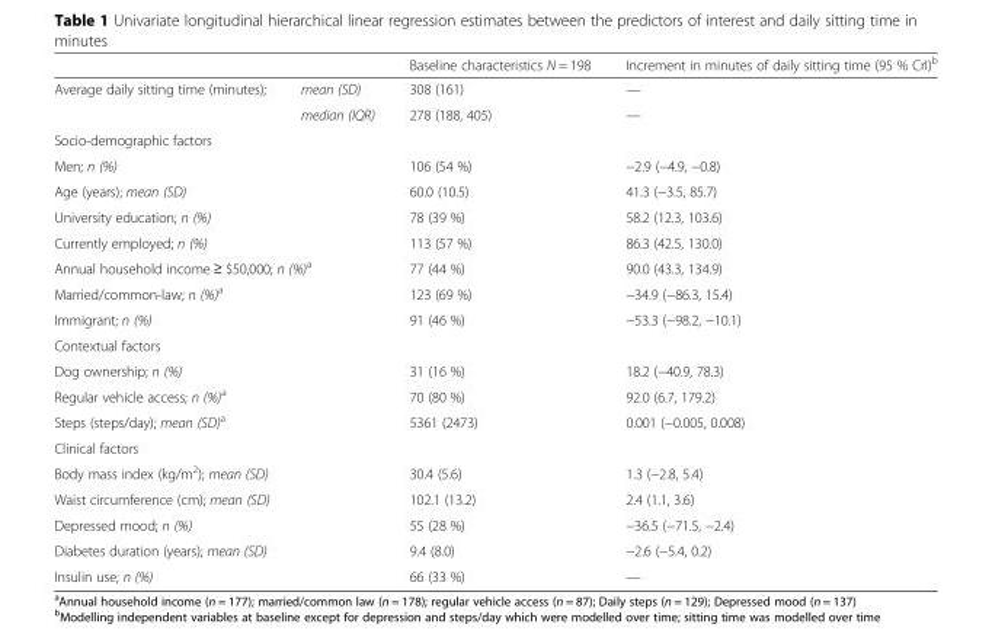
<table><thead><tr><td></td><td></td><td>Baseline characteristics N = 198</td><td>Increment in minutes of daily sitting time (95 % CrI)<sup>b</sup></td></tr></thead><tbody><tr><td rowspan="2">Average daily sitting time (minutes);</td><td>mean (SD)</td><td>308 (161)</td><td>—</td></tr><tr><td>median (IQR)</td><td>278 (188, 405)</td><td>—</td></tr><tr><td colspan="4">Socio-demographic factors</td></tr><tr><td colspan="2">Men; n (%)</td><td>106 (54 %)</td><td>−2.9 (−4.9, −0.8)</td></tr><tr><td colspan="2">Age (years); mean (SD)</td><td>60.0 (10.5)</td><td>41.3 (−3.5, 85.7)</td></tr><tr><td colspan="2">University education; n (%)</td><td>78 (39 %)</td><td>58.2 (12.3, 103.6)</td></tr><tr><td colspan="2">Currently employed; n (%)</td><td>113 (57 %)</td><td>86.3 (42.5, 130.0)</td></tr><tr><td colspan="2">Annual household income ≥ $50,000; n (%)<sup>a</sup></td><td>77 (44 %)</td><td>90.0 (43.3, 134.9)</td></tr><tr><td colspan="2">Married/common-law; n (%)<sup>a</sup></td><td>123 (69 %)</td><td>−34.9 (−86.3, 15.4)</td></tr><tr><td colspan="2">Immigrant; n (%)</td><td>91 (46 %)</td><td>−53.3 (−98.2, −10.1)</td></tr><tr><td colspan="4">Contextual factors</td></tr><tr><td colspan="2">Dog ownership; n (%)</td><td>31 (16 %)</td><td>18.2 (−40.9, 78.3)</td></tr><tr><td colspan="2">Regular vehicle access; n (%)<sup>a</sup></td><td>70 (80 %)</td><td>92.0 (6.7, 179.2)</td></tr><tr><td colspan="2">Steps (steps/day); mean (SD)<sup>a</sup></td><td>5361 (2473)</td><td>0.001 (−0.005, 0.008)</td></tr><tr><td colspan="4">Clinical factors</td></tr><tr><td colspan="2">Body mass index (kg/m<sup>2</sup>); mean (SD)</td><td>30.4 (5.6)</td><td>1.3 (−2.8, 5.4)</td></tr><tr><td colspan="2">Waist circumference (cm); mean (SD)</td><td>102.1 (13.2)</td><td>2.4 (1.1, 3.6)</td></tr><tr><td colspan="2">Depressed mood; n (%)</td><td>55 (28 %)</td><td>−36.5 (−71.5, −2.4)</td></tr><tr><td colspan="2">Diabetes duration (years); mean (SD)</td><td>9.4 (8.0)</td><td>−2.6 (−5.4, 0.2)</td></tr><tr><td colspan="2">Insulin use; n (%)</td><td>66 (33 %)</td><td>—</td></tr></tbody></table>